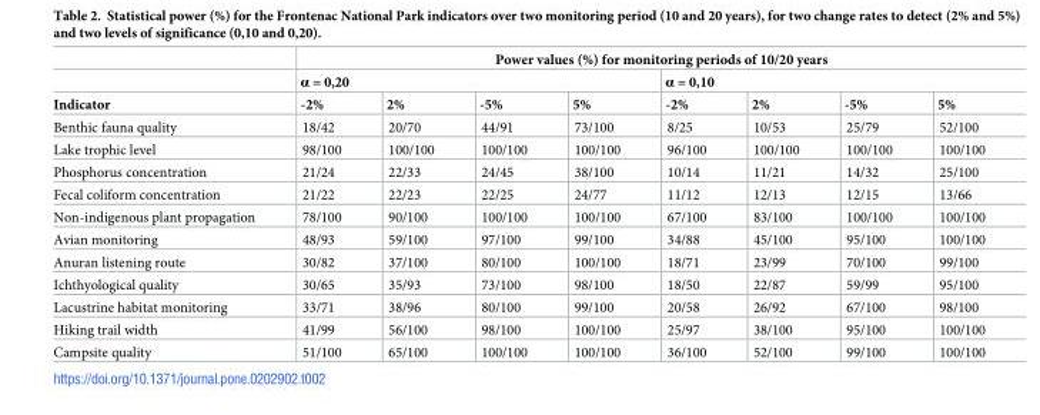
<table><thead><tr><td rowspan="3">Indicator</td><td colspan="8">Power values (%) for monitoring periods of 10/20 years</td></tr><tr><td colspan="4">α = 0,20</td><td colspan="4">α = 0,10</td></tr><tr><td>-2%</td><td>2%</td><td>-5%</td><td>5%</td><td>-2%</td><td>2%</td><td>-5%</td><td>5%</td></tr></thead><tbody><tr><td>Benthic fauna quality</td><td>18/42</td><td>20/70</td><td>44/91</td><td>73/100</td><td>8/25</td><td>10/53</td><td>25/79</td><td>52/100</td></tr><tr><td>Lake trophic level</td><td>98/100</td><td>100/100</td><td>100/100</td><td>100/100</td><td>96/100</td><td>100/100</td><td>100/100</td><td>100/100</td></tr><tr><td>Phosphorus concentration</td><td>21/24</td><td>22/33</td><td>24/45</td><td>38/100</td><td>10/14</td><td>11/21</td><td>14/32</td><td>25/100</td></tr><tr><td>Fecal coliform concentration</td><td>21/22</td><td>22/23</td><td>22/25</td><td>24/77</td><td>11/12</td><td>12/13</td><td>12/15</td><td>13/66</td></tr><tr><td>Non-indigenous plant propagation</td><td>78/100</td><td>90/100</td><td>100/100</td><td>100/100</td><td>67/100</td><td>83/100</td><td>100/100</td><td>100/100</td></tr><tr><td>Avian monitoring</td><td>48/93</td><td>59/100</td><td>97/100</td><td>99/100</td><td>34/88</td><td>45/100</td><td>95/100</td><td>100/100</td></tr><tr><td>Anuran listening route</td><td>30/82</td><td>37/100</td><td>80/100</td><td>100/100</td><td>18/71</td><td>23/99</td><td>70/100</td><td>99/100</td></tr><tr><td>Ichthyological quality</td><td>30/65</td><td>35/93</td><td>73/100</td><td>98/100</td><td>18/50</td><td>22/87</td><td>59/99</td><td>95/100</td></tr><tr><td>Lacustrine habitat monitoring</td><td>33/71</td><td>38/96</td><td>80/100</td><td>99/100</td><td>20/58</td><td>26/92</td><td>67/100</td><td>98/100</td></tr><tr><td>Hiking trail width</td><td>41/99</td><td>56/100</td><td>98/100</td><td>100/100</td><td>25/97</td><td>38/100</td><td>95/100</td><td>100/100</td></tr><tr><td>Campsite quality</td><td>51/100</td><td>65/100</td><td>100/100</td><td>100/100</td><td>36/100</td><td>52/100</td><td>99/100</td><td>100/100</td></tr></tbody></table>